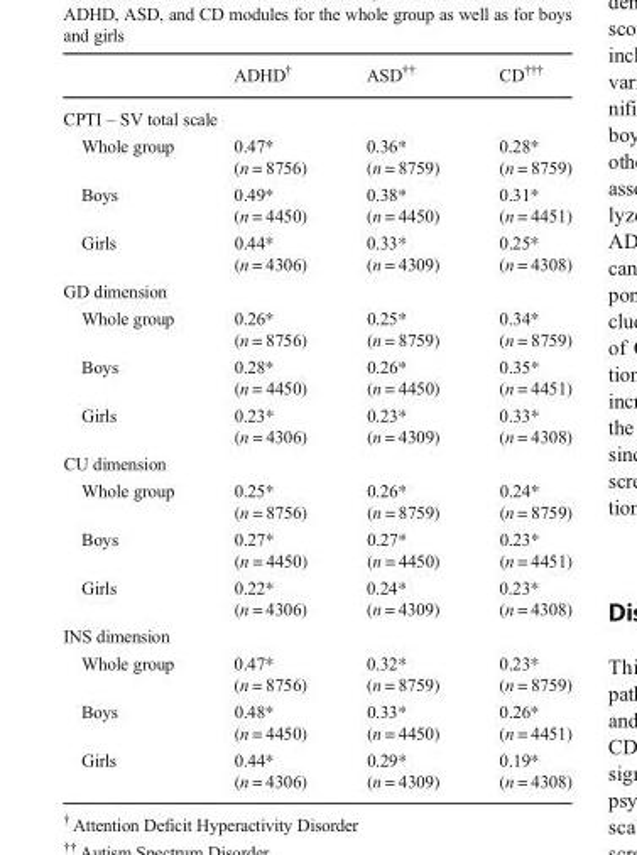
<table><thead><tr><td></td><td>ADHD<sup>†</sup></td><td>ASD<sup>††</sup></td><td>CD<sup>†††</sup></td></tr></thead><tbody><tr><td colspan="4">CPTI – SV total scale</td></tr><tr><td>Whole group</td><td>0.47* (n = 8756)</td><td>0.36* (n = 8759)</td><td>0.28* (n = 8759)</td></tr><tr><td>Boys</td><td>0.49* (n = 4450)</td><td>0.38* (n = 4450)</td><td>0.31* (n = 4451)</td></tr><tr><td>Girls</td><td>0.44* (n = 4306)</td><td>0.33* (n = 4309)</td><td>0.25* (n = 4308)</td></tr><tr><td colspan="4">GD dimension</td></tr><tr><td>Whole group</td><td>0.26* (n = 8756)</td><td>0.25* (n = 8759)</td><td>0.34* (n = 8759)</td></tr><tr><td>Boys</td><td>0.28* (n = 4450)</td><td>0.26* (n = 4450)</td><td>0.35* (n = 4451)</td></tr><tr><td>Girls</td><td>0.23* (n = 4306)</td><td>0.23* (n = 4309)</td><td>0.33* (n = 4308)</td></tr><tr><td colspan="4">CU dimension</td></tr><tr><td>Whole group</td><td>0.25* (n = 8756)</td><td>0.26* (n = 8759)</td><td>0.24* (n = 8759)</td></tr><tr><td>Boys</td><td>0.27* (n = 4450)</td><td>0.27* (n = 4450)</td><td>0.23* (n = 4451)</td></tr><tr><td>Girls</td><td>0.22* (n = 4306)</td><td>0.24* (n = 4309)</td><td>0.23* (n = 4308)</td></tr><tr><td colspan="4">INS dimension</td></tr><tr><td>Whole group</td><td>0.47* (n = 8756)</td><td>0.32* (n = 8759)</td><td>0.23* (n = 8759)</td></tr><tr><td>Boys</td><td>0.48* (n = 4450)</td><td>0.33* (n = 4450)</td><td>0.26* (n = 4451)</td></tr><tr><td>Girls</td><td>0.44* (n = 4306)</td><td>0.29* (n = 4309)</td><td>0.19* (n = 4308)</td></tr></tbody></table>